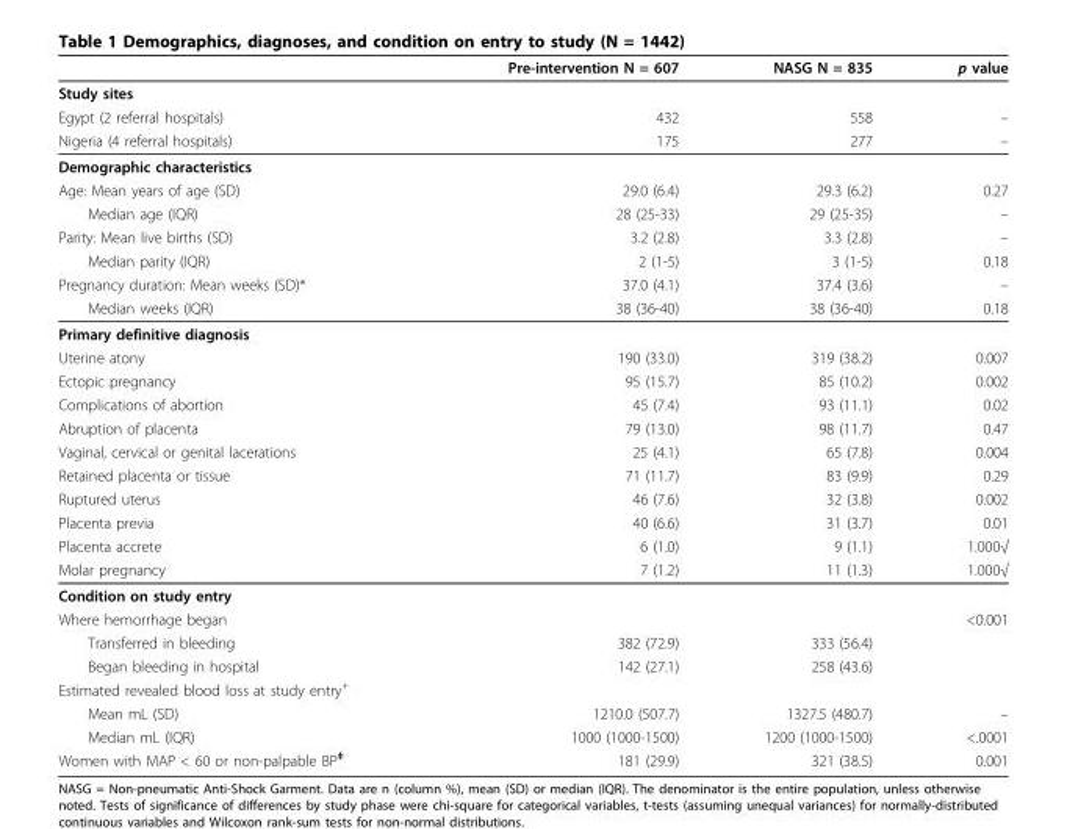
<table><thead><tr><td></td><td>Pre-intervention N = 607</td><td>NASG N = 835</td><td>p value</td></tr></thead><tbody><tr><td colspan="4">Study sites</td></tr><tr><td>Egypt (2 referral hospitals)</td><td>432</td><td>558</td><td>–</td></tr><tr><td>Nigeria (4 referral hospitals)</td><td>175</td><td>277</td><td>–</td></tr><tr><td colspan="4">Demographic characteristics</td></tr><tr><td>Age: Mean years of age (SD)</td><td>29.0 (6.4)</td><td>29.3 (6.2)</td><td>0.27</td></tr><tr><td>Median age (IQR)</td><td>28 (25-33)</td><td>29 (25-35)</td><td>–</td></tr><tr><td>Parity: Mean live births (SD)</td><td>3.2 (2.8)</td><td>3.3 (2.8)</td><td>–</td></tr><tr><td>Median parity (IQR)</td><td>2 (1-5)</td><td>3 (1-5)</td><td>0.18</td></tr><tr><td>Pregnancy duration: Mean weeks (SD)*</td><td>37.0 (4.1)</td><td>37.4 (3.6)</td><td>–</td></tr><tr><td>Median weeks (IQR)</td><td>38 (36-40)</td><td>38 (36-40)</td><td>0.18</td></tr><tr><td colspan="4">Primary definitive diagnosis</td></tr><tr><td>Uterine atony</td><td>190 (33.0)</td><td>319 (38.2)</td><td>0.007</td></tr><tr><td>Ectopic pregnancy</td><td>95 (15.7)</td><td>85 (10.2)</td><td>0.002</td></tr><tr><td>Complications of abortion</td><td>45 (7.4)</td><td>93 (11.1)</td><td>0.02</td></tr><tr><td>Abruption of placenta</td><td>79 (13.0)</td><td>98 (11.7)</td><td>0.47</td></tr><tr><td>Vaginal, cervical or genital lacerations</td><td>25 (4.1)</td><td>65 (7.8)</td><td>0.004</td></tr><tr><td>Retained placenta or tissue</td><td>71 (11.7)</td><td>83 (9.9)</td><td>0.29</td></tr><tr><td>Ruptured uterus</td><td>46 (7.6)</td><td>32 (3.8)</td><td>0.002</td></tr><tr><td>Placenta previa</td><td>40 (6.6)</td><td>31 (3.7)</td><td>0.01</td></tr><tr><td>Placenta accrete</td><td>6 (1.0)</td><td>9 (1.1)</td><td>1.000√</td></tr><tr><td>Molar pregnancy</td><td>7 (1.2)</td><td>11 (1.3)</td><td>1.000√</td></tr><tr><td colspan="4">Condition on study entry</td></tr><tr><td>Where hemorrhage began</td><td></td><td></td><td>&lt;0.001</td></tr><tr><td>Transferred in bleeding</td><td>382 (72.9)</td><td>333 (56.4)</td><td></td></tr><tr><td>Began bleeding in hospital</td><td>142 (27.1)</td><td>258 (43.6)</td><td></td></tr><tr><td colspan="4">Estimated revealed blood loss at study entry<sup>+</sup></td></tr><tr><td>Mean mL (SD)</td><td>1210.0 (507.7)</td><td>1327.5 (480.7)</td><td>–</td></tr><tr><td>Median mL (IQR)</td><td>1000 (1000-1500)</td><td>1200 (1000-1500)</td><td>&lt;.0001</td></tr><tr><td>Women with MAP &lt; 60 or non-palpable BP<sup>‡</sup></td><td>181 (29.9)</td><td>321 (38.5)</td><td>0.001</td></tr></tbody></table>